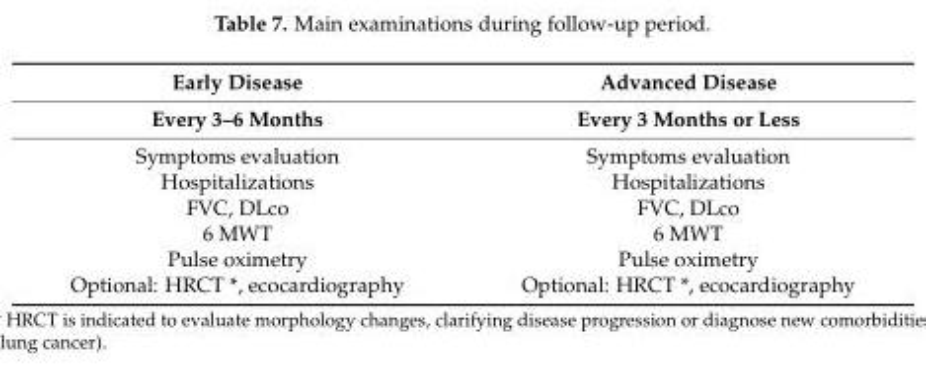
<table><thead><tr><td rowspan="2">Early Disease Every 3–6 Months</td><td rowspan="2">Advanced Disease Every 3 Months or Less</td></tr><tr></tr></thead><tbody><tr><td>Symptoms evaluation</td><td>Symptoms evaluation</td></tr><tr><td>Hospitalizations</td><td>Hospitalizations</td></tr><tr><td>FVC, DLco</td><td>FVC, DLco</td></tr><tr><td>6 MWT</td><td>6 MWT</td></tr><tr><td>Pulse oximetry</td><td>Pulse oximetry</td></tr><tr><td>Optional: HRCT *, ecocardiography</td><td>Optional: HRCT *, ecocardiography</td></tr></tbody></table>